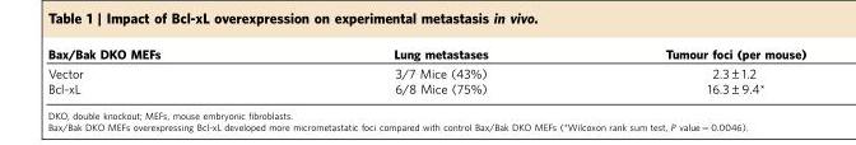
<table><thead><tr><td>Bax/Bak DKO MEFs</td><td>Lung metastases</td><td>Tumour foci (per mouse)</td></tr></thead><tbody><tr><td>Vector</td><td>3/7 Mice (43%)</td><td>2.3±1.2</td></tr><tr><td>Bcl-xL</td><td>6/8 Mice (75%)</td><td>16.3±9.4*</td></tr></tbody></table>